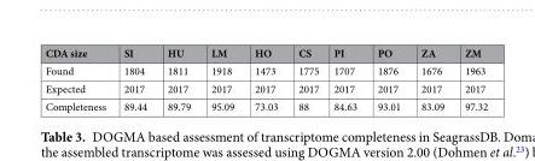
<table><thead><tr><td>CDA size</td><td>SI</td><td>HU</td><td>LM</td><td>HO</td><td>CS</td><td>PI</td><td>PO</td><td>ZA</td><td>ZM</td></tr></thead><tbody><tr><td>Found</td><td>1804</td><td>1811</td><td>1918</td><td>1473</td><td>1775</td><td>1707</td><td>1876</td><td>1676</td><td>1963</td></tr><tr><td>Expected</td><td>2017</td><td>2017</td><td>2017</td><td>2017</td><td>2017</td><td>2017</td><td>2017</td><td>2017</td><td>2017</td></tr><tr><td>Completeness</td><td>89.44</td><td>89.79</td><td>95.09</td><td>73.03</td><td>88</td><td>84.63</td><td>93.01</td><td>83.09</td><td>97.32</td></tr></tbody></table>